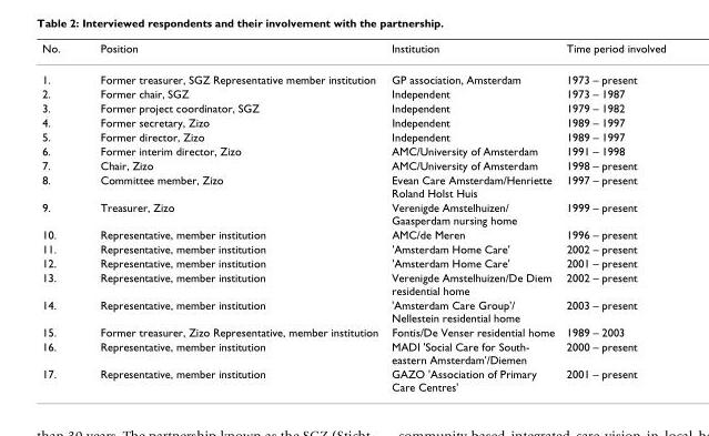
<table><thead><tr><td>No.</td><td>Position</td><td>Institution</td><td>Time period involved</td></tr></thead><tbody><tr><td>1.</td><td>Former treasurer, SGZ Representative member institution</td><td>GP association, Amsterdam</td><td>1973 – present</td></tr><tr><td>2.</td><td>Former chair, SGZ</td><td>Independent</td><td>1973 – 1987</td></tr><tr><td>3.</td><td>Former project coordinator, SGZ</td><td>Independent</td><td>1979 – 1982</td></tr><tr><td>4.</td><td>Former secretary, Zizo</td><td>Independent</td><td>1989 – 1997</td></tr><tr><td>5.</td><td>Former director, Zizo</td><td>Independent</td><td>1989 – 1997</td></tr><tr><td>6.</td><td>Former interim director, Zizo</td><td>AMC/University of Amsterdam</td><td>1991 – 1998</td></tr><tr><td>7.</td><td>Chair, Zizo</td><td>AMC/University of Amsterdam</td><td>1998 – present</td></tr><tr><td>8.</td><td>Committee member, Zizo</td><td>Evean Care Amsterdam/Henriette Roland Holst Huis</td><td>1997 – present</td></tr><tr><td>9.</td><td>Treasurer, Zizo</td><td>Verenigde Amstelhuizen/ Gaasperdam nursing home</td><td>1999 – present</td></tr><tr><td>10.</td><td>Representative, member institution</td><td>AMC/de Meren</td><td>1996 – present</td></tr><tr><td>11.</td><td>Representative, member institution</td><td>&#x27;Amsterdam Home Care&#x27;</td><td>2002 – present</td></tr><tr><td>12.</td><td>Representative, member institution</td><td>&#x27;Amsterdam Home Care&#x27;</td><td>2001 – present</td></tr><tr><td>13.</td><td>Representative, member institution</td><td>Verenigde Amstelhuizen/De Diem residential home</td><td>2002 – present</td></tr><tr><td>14.</td><td>Representative, member institution</td><td>&#x27;Amsterdam Care Group&#x27;/ Nellestein residential home</td><td>2003 – present</td></tr><tr><td>15.</td><td>Former treasurer, Zizo Representative, member institution</td><td>Fontis/De Venser residential home</td><td>1989 – 2003</td></tr><tr><td>16.</td><td>Representative, member institution</td><td>MADI &#x27;Social Care for South- eastern Amsterdam&#x27;/Diemen</td><td>2000 – present</td></tr><tr><td>17.</td><td>Representative, member institution</td><td>GAZO &#x27;Association of Primary Care Centres&#x27;</td><td>2001 – present</td></tr></tbody></table>